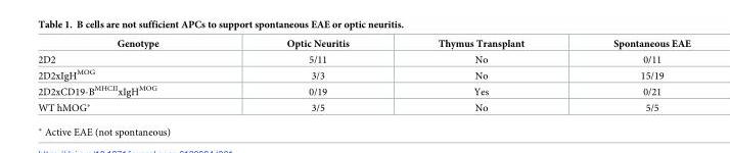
<table><thead><tr><td>Genotype</td><td>Optic Neuritis</td><td>Thymus Transplant</td><td>Spontaneous EAE</td></tr></thead><tbody><tr><td>2D2</td><td>5/11</td><td>No</td><td>0/11</td></tr><tr><td>2D2xIgH<sup>MOG</sup></td><td>3/3</td><td>No</td><td>15/19</td></tr><tr><td>2D2xCD19-B<sup>MHCII</sup>xIgH<sup>MOG</sup></td><td>0/19</td><td>Yes</td><td>0/21</td></tr><tr><td>WT hMOG*</td><td>3/5</td><td>No</td><td>5/5</td></tr></tbody></table>